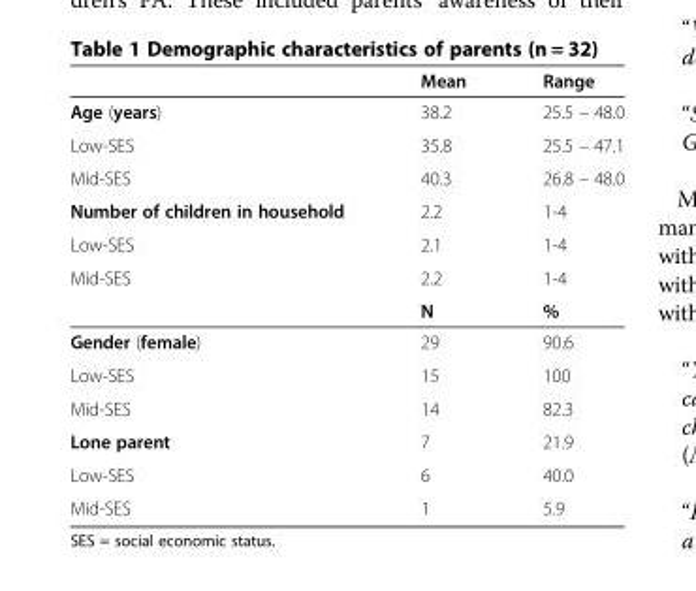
<table><thead><tr><td></td><td>Mean</td><td>Range</td></tr></thead><tbody><tr><td>Age (years)</td><td>38.2</td><td>25.5 – 48.0</td></tr><tr><td>Low-SES</td><td>35.8</td><td>25.5 – 47.1</td></tr><tr><td>Mid-SES</td><td>40.3</td><td>26.8 – 48.0</td></tr><tr><td>Number of children in household</td><td>2.2</td><td>1-4</td></tr><tr><td>Low-SES</td><td>2.1</td><td>1-4</td></tr><tr><td rowspan="2">Mid-SES</td><td>2.2</td><td>1-4</td></tr><tr><td>N</td><td>%</td></tr><tr><td>Gender (female)</td><td>29</td><td>90.6</td></tr><tr><td>Low-SES</td><td>15</td><td>100</td></tr><tr><td>Mid-SES</td><td>14</td><td>82.3</td></tr><tr><td>Lone parent</td><td>7</td><td>21.9</td></tr><tr><td>Low-SES</td><td>6</td><td>40.0</td></tr><tr><td>Mid-SES</td><td>1</td><td>5.9</td></tr></tbody></table>